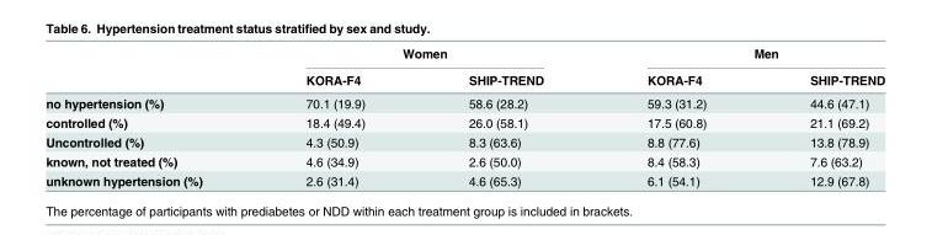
<table><thead><tr><td rowspan="2"></td><td colspan="2">Women</td><td colspan="2">Men</td></tr><tr><td>KORA-F4</td><td>SHIP-TREND</td><td>KORA-F4</td><td>SHIP-TREND</td></tr></thead><tbody><tr><td>no hypertension (%)</td><td>70.1 (19.9)</td><td>58.6 (28.2)</td><td>59.3 (31.2)</td><td>44.6 (47.1)</td></tr><tr><td>controlled (%)</td><td>18.4 (49.4)</td><td>26.0 (58.1)</td><td>17.5 (60.8)</td><td>21.1 (69.2)</td></tr><tr><td>Uncontrolled (%)</td><td>4.3 (50.9)</td><td>8.3 (63.6)</td><td>8.8 (77.6)</td><td>13.8 (78.9)</td></tr><tr><td>known, not treated (%)</td><td>4.6 (34.9)</td><td>2.6 (50.0)</td><td>8.4 (58.3)</td><td>7.6 (63.2)</td></tr><tr><td>unknown hypertension (%)</td><td>2.6 (31.4)</td><td>4.6 (65.3)</td><td>6.1 (54.1)</td><td>12.9 (67.8)</td></tr></tbody></table>